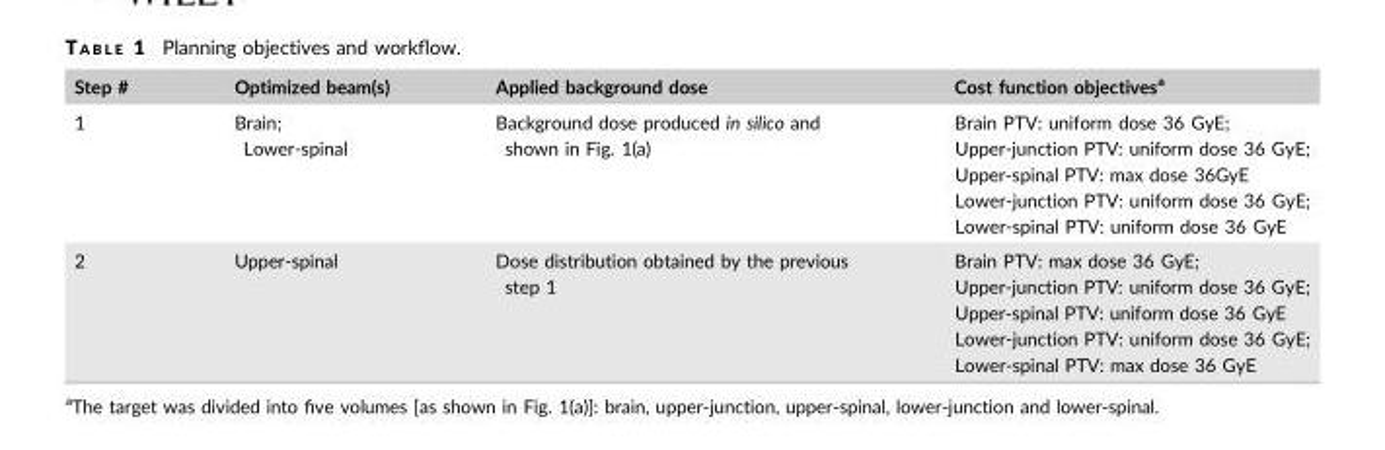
<table><thead><tr><td>Step #</td><td>Optimized beam(s)</td><td>Applied background dose</td><td>Cost function objectives<sup>a</sup></td></tr></thead><tbody><tr><td>1</td><td>Brain; Lower-spinal</td><td>Background dose produced in silico and shown in Fig. 1(a)</td><td>Brain PTV: uniform dose 36 GyE; Upper-junction PTV: uniform dose 36 GyE; Upper-spinal PTV: max dose 36GyE Lower-junction PTV: uniform dose 36 GyE; Lower-spinal PTV: uniform dose 36 GyE</td></tr><tr><td>2</td><td>Upper-spinal</td><td>Dose distribution obtained by the previous step 1</td><td>Brain PTV: max dose 36 GyE; Upper-junction PTV: uniform dose 36 GyE; Upper-spinal PTV: uniform dose 36 GyE Lower-junction PTV: uniform dose 36 GyE; Lower-spinal PTV: max dose 36 GyE</td></tr></tbody></table>